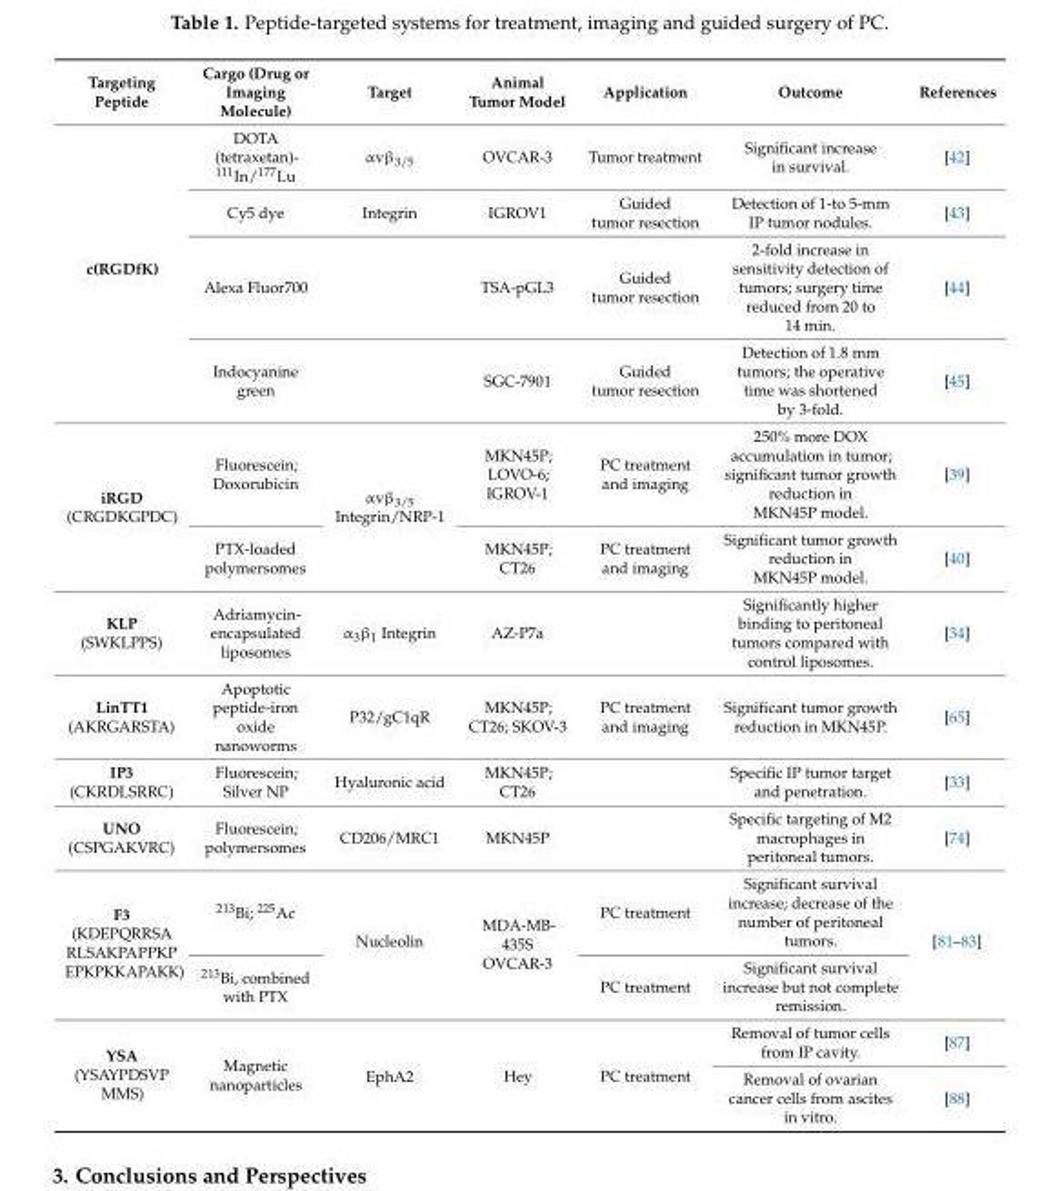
<table><thead><tr><td>Targeting Peptide</td><td>Cargo (Drug or Imaging Molecule)</td><td>Target</td><td>Animal Tumor Model</td><td>Application</td><td>Outcome</td><td>References</td></tr></thead><tbody><tr><td rowspan="4">c(RGDfK)</td><td>DOTA (tetraxetan)- <sup>111</sup>In/<sup>177</sup>Lu</td><td>αvβ<sub>3/5</sub></td><td>OVCAR-3</td><td>Tumor treatment</td><td>Significant increase in survival.</td><td>[42]</td></tr><tr><td>Cy5 dye</td><td>Integrin</td><td>IGROV1</td><td>Guided tumor resection</td><td>Detection of 1-to 5-mm IP tumor nodules.</td><td>[43]</td></tr><tr><td>Alexa Fluor700</td><td></td><td>TSA-pGL3</td><td>Guided tumor resection</td><td>2-fold increase in sensitivity detection of tumors; surgery time reduced from 20 to 14 min.</td><td>[44]</td></tr><tr><td>Indocyanine green</td><td></td><td>SGC-7901</td><td>Guided tumor resection</td><td>Detection of 1.8 mm tumors; the operative time was shortened by 3-fold.</td><td>[45]</td></tr><tr><td rowspan="2">iRGD (CRGDKGPDC)</td><td>Fluorescein; Doxorubicin</td><td rowspan="2">αvβ<sub>3/5</sub> Integrin/NRP-1</td><td>MKN45P; LOVO-6; IGROV-1</td><td>PC treatment and imaging</td><td>250% more DOX accumulation in tumor; significant tumor growth reduction in MKN45P model.</td><td>[39]</td></tr><tr><td>PTX-loaded polymersomes</td><td>MKN45P; CT26</td><td>PC treatment and imaging</td><td>Significant tumor growth reduction in MKN45P model.</td><td>[40]</td></tr><tr><td>KLP (SWKLPPS)</td><td>Adriamycin- encapsulated liposomes</td><td>α<sub>3</sub>β<sub>1</sub> Integrin</td><td>AZ-P7a</td><td></td><td>Significantly higher binding to peritoneal tumors compared with control liposomes.</td><td>[34]</td></tr><tr><td>LinTT1 (AKRGARSTA)</td><td>Apoptotic peptide-iron oxide nanoworms</td><td>P32/gC1qR</td><td>MKN45P; CT26; SKOV-3</td><td>PC treatment and imaging</td><td>Significant tumor growth reduction in MKN45P.</td><td>[65]</td></tr><tr><td>IP3 (CKRDLSRRC)</td><td>Fluorescein; Silver NP</td><td>Hyaluronic acid</td><td>MKN45P; CT26</td><td></td><td>Specific IP tumor target and penetration.</td><td>[33]</td></tr><tr><td>UNO (CSPGAKVRC)</td><td>Fluorescein; polymersomes</td><td>CD206/MRC1</td><td>MKN45P</td><td></td><td>Specific targeting of M2 macrophages in peritoneal tumors.</td><td>[74]</td></tr><tr><td rowspan="2">F3 (KDEPQRRSA RLSAKPAPPKP EPKPKKAPAKK)</td><td><sup>213</sup>Bi; <sup>225</sup>Ac</td><td rowspan="2">Nucleolin</td><td rowspan="2">MDA-MB- 435S OVCAR-3</td><td>PC treatment</td><td>Significant survival increase; decrease of the number of peritoneal tumors.</td><td rowspan="2">[81–83]</td></tr><tr><td><sup>213</sup>Bi, combined with PTX</td><td>PC treatment</td><td>Significant survival increase but not complete remission.</td></tr><tr><td rowspan="2">YSA (YSAYPDSVP MMS)</td><td rowspan="2">Magnetic nanoparticles</td><td rowspan="2">EphA2</td><td rowspan="2">Hey</td><td rowspan="2">PC treatment</td><td>Removal of tumor cells from IP cavity.</td><td>[87]</td></tr><tr><td>Removal of ovarian cancer cells from ascites in vitro.</td><td>[88]</td></tr></tbody></table>